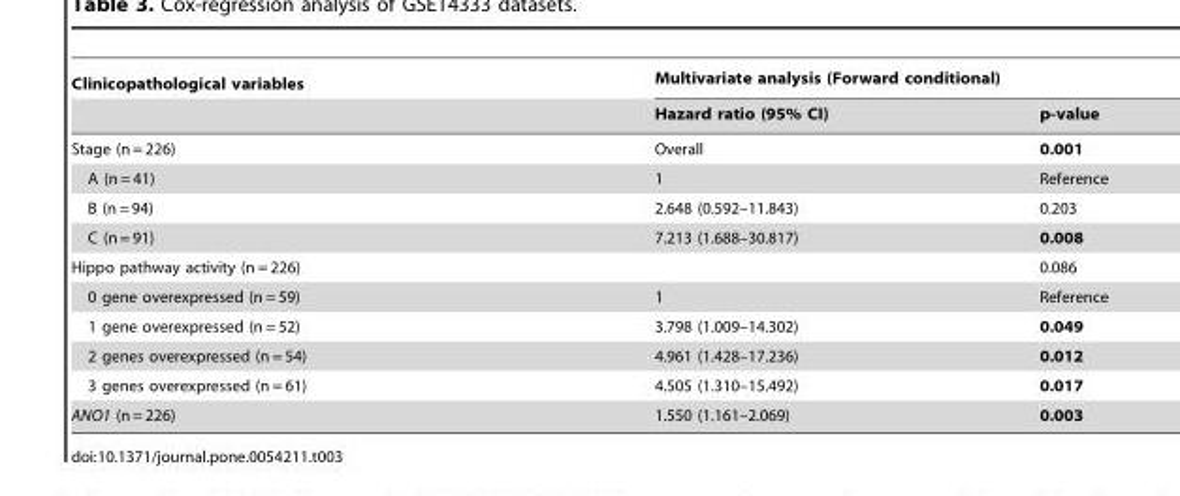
<table><thead><tr><td rowspan="2">Clinicopathological variables</td><td colspan="2">Multivariate analysis (Forward conditional)</td></tr><tr><td>Hazard ratio (95% CI)</td><td>p-value</td></tr></thead><tbody><tr><td>Stage (n = 226)</td><td>Overall</td><td>0.001</td></tr><tr><td>A (n = 41)</td><td>1</td><td>Reference</td></tr><tr><td>B (n = 94)</td><td>2.648 (0.592–11.843)</td><td>0.203</td></tr><tr><td>C (n = 91)</td><td>7.213 (1.688–30.817)</td><td>0.008</td></tr><tr><td>Hippo pathway activity (n = 226)</td><td></td><td>0.086</td></tr><tr><td>0 gene overexpressed (n = 59)</td><td>1</td><td>Reference</td></tr><tr><td>1 gene overexpressed (n = 52)</td><td>3.798 (1.009–14.302)</td><td>0.049</td></tr><tr><td>2 genes overexpressed (n = 54)</td><td>4.961 (1.428–17.236)</td><td>0.012</td></tr><tr><td>3 genes overexpressed (n = 61)</td><td>4.505 (1.310–15.492)</td><td>0.017</td></tr><tr><td>ANO1 (n = 226)</td><td>1.550 (1.161–2.069)</td><td>0.003</td></tr></tbody></table>